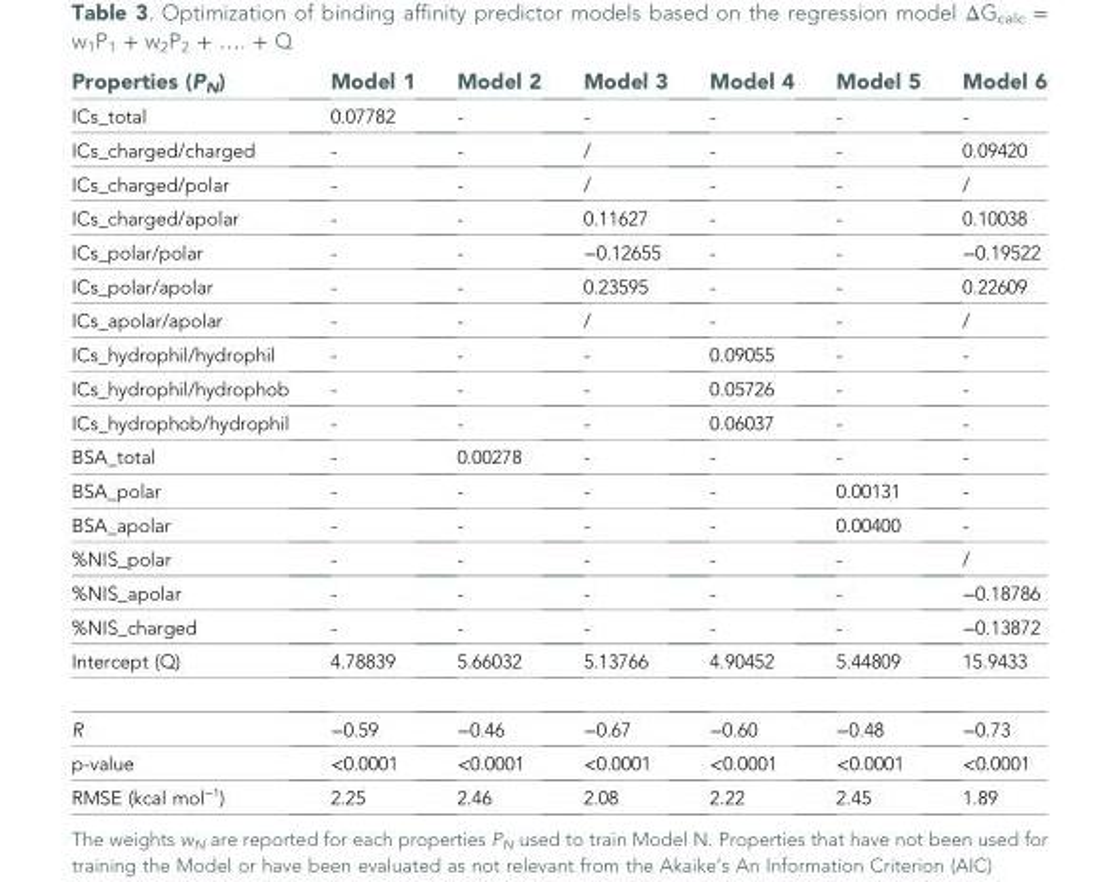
<table><thead><tr><td>Properties (P<sub>N</sub>)</td><td>Model 1</td><td>Model 2</td><td>Model 3</td><td>Model 4</td><td>Model 5</td><td>Model 6</td></tr></thead><tbody><tr><td>ICs_total</td><td>0.07782</td><td>-</td><td>-</td><td>-</td><td>-</td><td>-</td></tr><tr><td>ICs_charged/charged</td><td>-</td><td>-</td><td>/</td><td>-</td><td>-</td><td>0.09420</td></tr><tr><td>ICs_charged/polar</td><td>-</td><td>-</td><td>/</td><td>-</td><td>-</td><td>/</td></tr><tr><td>ICs_charged/apolar</td><td>-</td><td>-</td><td>0.11627</td><td>-</td><td>-</td><td>0.10038</td></tr><tr><td>ICs_polar/polar</td><td>-</td><td>-</td><td>−0.12655</td><td>-</td><td>-</td><td>−0.19522</td></tr><tr><td>ICs_polar/apolar</td><td>-</td><td>-</td><td>0.23595</td><td>-</td><td>-</td><td>0.22609</td></tr><tr><td>ICs_apolar/apolar</td><td>-</td><td>-</td><td>/</td><td>-</td><td>-</td><td>/</td></tr><tr><td>ICs_hydrophil/hydrophil</td><td>-</td><td>-</td><td>-</td><td>0.09055</td><td>-</td><td>-</td></tr><tr><td>ICs_hydrophil/hydrophob</td><td>-</td><td>-</td><td>-</td><td>0.05726</td><td>-</td><td>-</td></tr><tr><td>ICs_hydrophob/hydrophil</td><td>-</td><td>-</td><td>-</td><td>0.06037</td><td>-</td><td>-</td></tr><tr><td>BSA_total</td><td>-</td><td>0.00278</td><td>-</td><td>-</td><td>-</td><td>-</td></tr><tr><td>BSA_polar</td><td>-</td><td>-</td><td>-</td><td>-</td><td>0.00131</td><td>-</td></tr><tr><td>BSA_apolar</td><td>-</td><td>-</td><td>-</td><td>-</td><td>0.00400</td><td>-</td></tr><tr><td>%NIS_polar</td><td>-</td><td>-</td><td>-</td><td>-</td><td>-</td><td>/</td></tr><tr><td>%NIS_apolar</td><td>-</td><td>-</td><td>-</td><td>-</td><td>-</td><td>−0.18786</td></tr><tr><td>%NIS_charged</td><td>-</td><td>-</td><td>-</td><td>-</td><td>-</td><td>−0.13872</td></tr><tr><td>Intercept (Q)</td><td>4.78839</td><td>5.66032</td><td>5.13766</td><td>4.90452</td><td>5.44809</td><td>15.9433</td></tr><tr><td>R</td><td>−0.59</td><td>−0.46</td><td>−0.67</td><td>−0.60</td><td>−0.48</td><td>−0.73</td></tr><tr><td>p-value</td><td>&lt;0.0001</td><td>&lt;0.0001</td><td>&lt;0.0001</td><td>&lt;0.0001</td><td>&lt;0.0001</td><td>&lt;0.0001</td></tr><tr><td>RMSE (kcal mol<sup>−1</sup>)</td><td>2.25</td><td>2.46</td><td>2.08</td><td>2.22</td><td>2.45</td><td>1.89</td></tr></tbody></table>